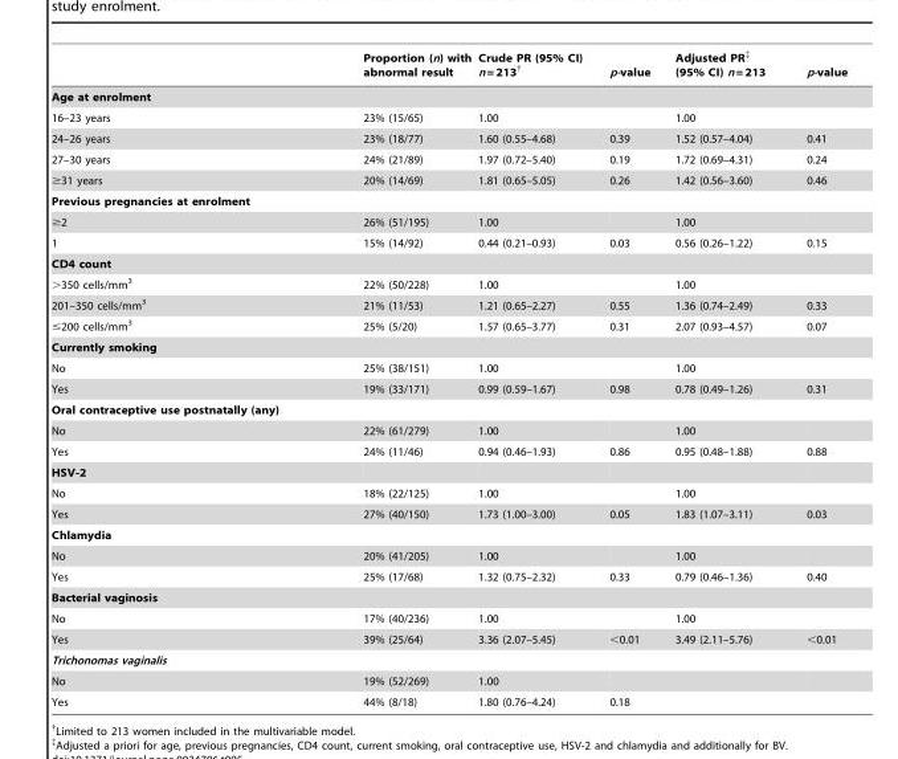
<table><thead><tr><td></td><td>Proportion (n) with abnormal result</td><td>Crude PR (95% CI) n = 213†</td><td>p-value</td><td>Adjusted PR‡ (95% CI) n = 213</td><td>p-value</td></tr></thead><tbody><tr><td colspan="6">Age at enrolment</td></tr><tr><td>16–23 years</td><td>23% (15/65)</td><td>1.00</td><td></td><td>1.00</td><td></td></tr><tr><td>24–26 years</td><td>23% (18/77)</td><td>1.60 (0.55–4.68)</td><td>0.39</td><td>1.52 (0.57–4.04)</td><td>0.41</td></tr><tr><td>27–30 years</td><td>24% (21/89)</td><td>1.97 (0.72–5.40)</td><td>0.19</td><td>1.72 (0.69–4.31)</td><td>0.24</td></tr><tr><td>≥31 years</td><td>20% (14/69)</td><td>1.81 (0.65–5.05)</td><td>0.26</td><td>1.42 (0.56–3.60)</td><td>0.46</td></tr><tr><td colspan="6">Previous pregnancies at enrolment</td></tr><tr><td>≥2</td><td>26% (51/195)</td><td>1.00</td><td></td><td>1.00</td><td></td></tr><tr><td>1</td><td>15% (14/92)</td><td>0.44 (0.21–0.93)</td><td>0.03</td><td>0.56 (0.26–1.22)</td><td>0.15</td></tr><tr><td colspan="6">CD4 count</td></tr><tr><td>&gt;350 cells/mm<sup>3</sup></td><td>22% (50/228)</td><td>1.00</td><td></td><td>1.00</td><td></td></tr><tr><td>201–350 cells/mm<sup>3</sup></td><td>21% (11/53)</td><td>1.21 (0.65–2.27)</td><td>0.55</td><td>1.36 (0.74–2.49)</td><td>0.33</td></tr><tr><td>≤200 cells/mm<sup>3</sup></td><td>25% (5/20)</td><td>1.57 (0.65–3.77)</td><td>0.31</td><td>2.07 (0.93–4.57)</td><td>0.07</td></tr><tr><td colspan="6">Currently smoking</td></tr><tr><td>No</td><td>25% (38/151)</td><td>1.00</td><td></td><td>1.00</td><td></td></tr><tr><td>Yes</td><td>19% (33/171)</td><td>0.99 (0.59–1.67)</td><td>0.98</td><td>0.78 (0.49–1.26)</td><td>0.31</td></tr><tr><td colspan="6">Oral contraceptive use postnatally (any)</td></tr><tr><td>No</td><td>22% (61/279)</td><td>1.00</td><td></td><td>1.00</td><td></td></tr><tr><td>Yes</td><td>24% (11/46)</td><td>0.94 (0.46–1.93)</td><td>0.86</td><td>0.95 (0.48–1.88)</td><td>0.88</td></tr><tr><td colspan="6">HSV-2</td></tr><tr><td>No</td><td>18% (22/125)</td><td>1.00</td><td></td><td>1.00</td><td></td></tr><tr><td>Yes</td><td>27% (40/150)</td><td>1.73 (1.00–3.00)</td><td>0.05</td><td>1.83 (1.07–3.11)</td><td>0.03</td></tr><tr><td colspan="6">Chlamydia</td></tr><tr><td>No</td><td>20% (41/205)</td><td>1.00</td><td></td><td>1.00</td><td></td></tr><tr><td>Yes</td><td>25% (17/68)</td><td>1.32 (0.75–2.32)</td><td>0.33</td><td>0.79 (0.46–1.36)</td><td>0.40</td></tr><tr><td colspan="6">Bacterial vaginosis</td></tr><tr><td>No</td><td>17% (40/236)</td><td>1.00</td><td></td><td>1.00</td><td></td></tr><tr><td>Yes</td><td>39% (25/64)</td><td>3.36 (2.07–5.45)</td><td>&lt;0.01</td><td>3.49 (2.11–5.76)</td><td>&lt;0.01</td></tr><tr><td colspan="6">Trichonomas vaginalis</td></tr><tr><td>No</td><td>19% (52/269)</td><td>1.00</td><td></td><td></td><td></td></tr><tr><td>Yes</td><td>44% (8/18)</td><td>1.80 (0.76–4.24)</td><td>0.18</td><td></td><td></td></tr></tbody></table>